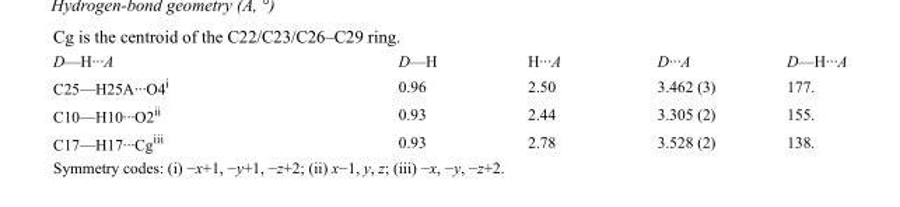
<table><tbody><tr><td>D—H···A</td><td>D—H</td><td>H···A</td><td>D···A</td><td>D—H···A</td></tr><tr><td>C25—H25A···O4<sup>i</sup></td><td>0.96</td><td>2.50</td><td>3.462 (3)</td><td>177.</td></tr><tr><td>C10—H10···O2<sup>ii</sup></td><td>0.93</td><td>2.44</td><td>3.305 (2)</td><td>155.</td></tr><tr><td>C17—H17···Cg<sup>iii</sup></td><td>0.93</td><td>2.78</td><td>3.528 (2)</td><td>138.</td></tr></tbody></table>